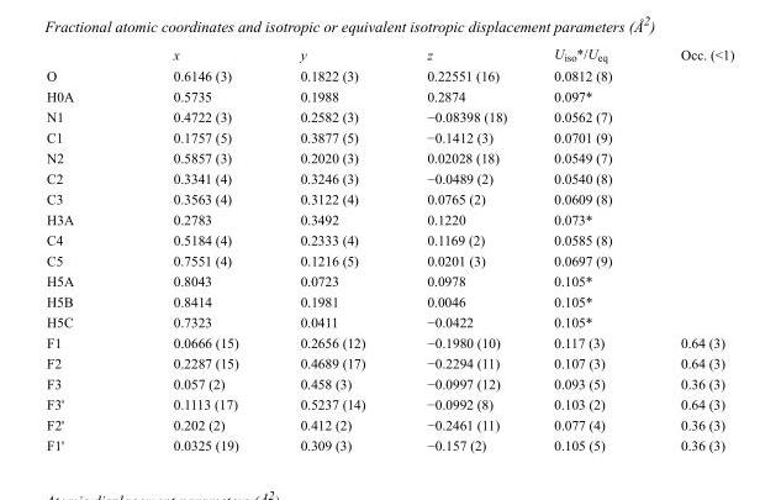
<table><thead><tr><td></td><td>x</td><td>y</td><td>z</td><td>U<sub>iso</sub>*/U<sub>eq</sub></td><td>Occ. (&lt;1)</td></tr></thead><tbody><tr><td>O</td><td>0.6146 (3)</td><td>0.1822 (3)</td><td>0.22551 (16)</td><td>0.0812 (8)</td><td></td></tr><tr><td>H0A</td><td>0.5735</td><td>0.1988</td><td>0.2874</td><td>0.097*</td><td></td></tr><tr><td>N1</td><td>0.4722 (3)</td><td>0.2582 (3)</td><td>−0.08398 (18)</td><td>0.0562 (7)</td><td></td></tr><tr><td>C1</td><td>0.1757 (5)</td><td>0.3877 (5)</td><td>−0.1412 (3)</td><td>0.0701 (9)</td><td></td></tr><tr><td>N2</td><td>0.5857 (3)</td><td>0.2020 (3)</td><td>0.02028 (18)</td><td>0.0549 (7)</td><td></td></tr><tr><td>C2</td><td>0.3341 (4)</td><td>0.3246 (3)</td><td>−0.0489 (2)</td><td>0.0540 (8)</td><td></td></tr><tr><td>C3</td><td>0.3563 (4)</td><td>0.3122 (4)</td><td>0.0765 (2)</td><td>0.0609 (8)</td><td></td></tr><tr><td>H3A</td><td>0.2783</td><td>0.3492</td><td>0.1220</td><td>0.073*</td><td></td></tr><tr><td>C4</td><td>0.5184 (4)</td><td>0.2333 (4)</td><td>0.1169 (2)</td><td>0.0585 (8)</td><td></td></tr><tr><td>C5</td><td>0.7551 (4)</td><td>0.1216 (5)</td><td>0.0201 (3)</td><td>0.0697 (9)</td><td></td></tr><tr><td>H5A</td><td>0.8043</td><td>0.0723</td><td>0.0978</td><td>0.105*</td><td></td></tr><tr><td>H5B</td><td>0.8414</td><td>0.1981</td><td>0.0046</td><td>0.105*</td><td></td></tr><tr><td>H5C</td><td>0.7323</td><td>0.0411</td><td>−0.0422</td><td>0.105*</td><td></td></tr><tr><td>F1</td><td>0.0666 (15)</td><td>0.2656 (12)</td><td>−0.1980 (10)</td><td>0.117 (3)</td><td>0.64 (3)</td></tr><tr><td>F2</td><td>0.2287 (15)</td><td>0.4689 (17)</td><td>−0.2294 (11)</td><td>0.107 (3)</td><td>0.64 (3)</td></tr><tr><td>F3</td><td>0.057 (2)</td><td>0.458 (3)</td><td>−0.0997 (12)</td><td>0.093 (5)</td><td>0.36 (3)</td></tr><tr><td>F3&#x27;</td><td>0.1113 (17)</td><td>0.5237 (14)</td><td>−0.0992 (8)</td><td>0.103 (2)</td><td>0.64 (3)</td></tr><tr><td>F2&#x27;</td><td>0.202 (2)</td><td>0.412 (2)</td><td>−0.2461 (11)</td><td>0.077 (4)</td><td>0.36 (3)</td></tr><tr><td>F1&#x27;</td><td>0.0325 (19)</td><td>0.309 (3)</td><td>−0.157 (2)</td><td>0.105 (5)</td><td>0.36 (3)</td></tr></tbody></table>